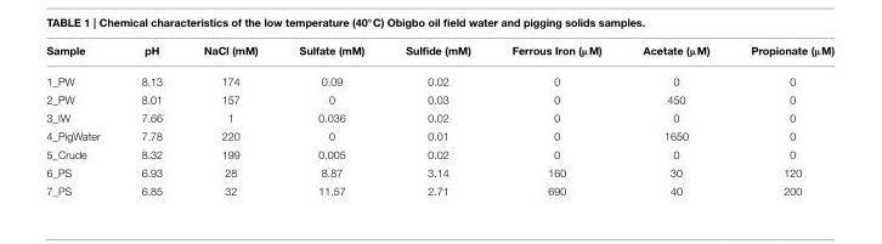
<table><thead><tr><td>Sample</td><td>pH</td><td>NaCl (mM)</td><td>Sulfate (mM)</td><td>Sulfide (mM)</td><td>Ferrous Iron (µM)</td><td>Acetate (µM)</td><td>Propionate (µM)</td></tr></thead><tbody><tr><td>1_PW</td><td>8.13</td><td>174</td><td>0.09</td><td>0.02</td><td>0</td><td>0</td><td>0</td></tr><tr><td>2_PW</td><td>8.01</td><td>157</td><td>0</td><td>0.03</td><td>0</td><td>450</td><td>0</td></tr><tr><td>3_IW</td><td>7.66</td><td>1</td><td>0.036</td><td>0.02</td><td>0</td><td>0</td><td>0</td></tr><tr><td>4_PigWater</td><td>7.78</td><td>220</td><td>0</td><td>0.01</td><td>0</td><td>1650</td><td>0</td></tr><tr><td>5_Crude</td><td>8.32</td><td>199</td><td>0.005</td><td>0.02</td><td>0</td><td>0</td><td>0</td></tr><tr><td>6_PS</td><td>6.93</td><td>28</td><td>8.87</td><td>3.14</td><td>160</td><td>30</td><td>120</td></tr><tr><td>7_PS</td><td>6.85</td><td>32</td><td>11.57</td><td>2.71</td><td>690</td><td>40</td><td>200</td></tr></tbody></table>